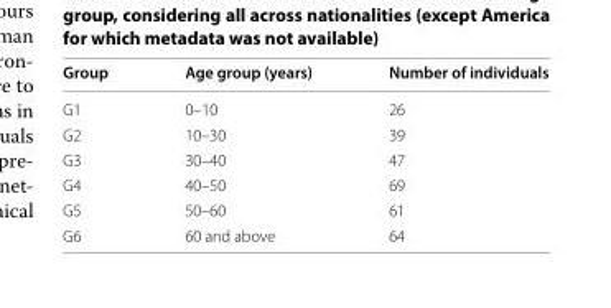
<table><thead><tr><td>Group</td><td>Age group (years)</td><td>Number of individuals</td></tr></thead><tbody><tr><td>G1</td><td>0–10</td><td>26</td></tr><tr><td>G2</td><td>10–30</td><td>39</td></tr><tr><td>G3</td><td>30–40</td><td>47</td></tr><tr><td>G4</td><td>40–50</td><td>69</td></tr><tr><td>G5</td><td>50–60</td><td>61</td></tr><tr><td>G6</td><td>60 and above</td><td>64</td></tr></tbody></table>